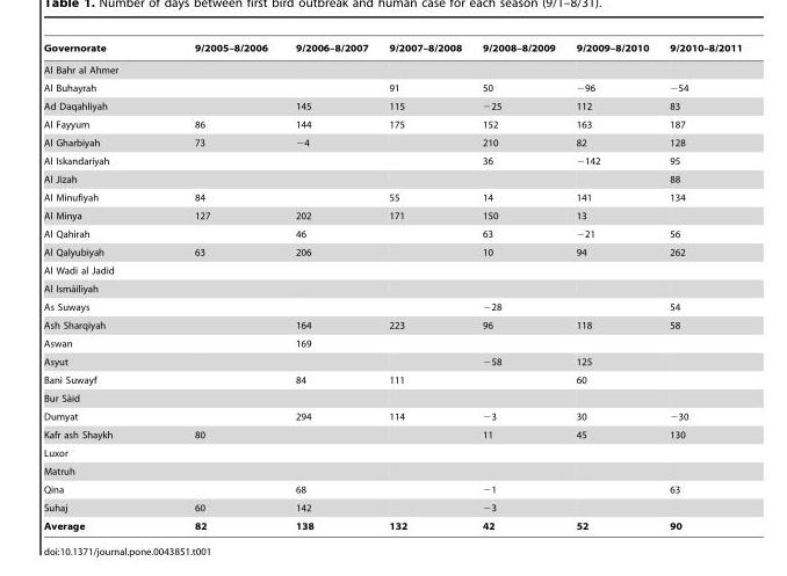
<table><thead><tr><td>Governorate</td><td>9/2005–8/2006</td><td>9/2006–8/2007</td><td>9/2007–8/2008</td><td>9/2008–8/2009</td><td>9/2009–8/2010</td><td>9/2010–8/2011</td></tr></thead><tbody><tr><td colspan="7">Al Bahr al Ahmer</td></tr><tr><td>Al Buhayrah</td><td></td><td></td><td>91</td><td>50</td><td>−96</td><td>−54</td></tr><tr><td>Ad Daqahliyah</td><td></td><td>145</td><td>115</td><td>−25</td><td>112</td><td>83</td></tr><tr><td>Al Fayyum</td><td>86</td><td>144</td><td>175</td><td>152</td><td>163</td><td>187</td></tr><tr><td>Al Gharbiyah</td><td>73</td><td>−4</td><td></td><td>210</td><td>82</td><td>128</td></tr><tr><td>Al Iskandariyah</td><td></td><td></td><td></td><td>36</td><td>−142</td><td>95</td></tr><tr><td>Al Jizah</td><td></td><td></td><td></td><td></td><td></td><td>88</td></tr><tr><td>Al Minufiyah</td><td>84</td><td></td><td>55</td><td>14</td><td>141</td><td>134</td></tr><tr><td>Al Minya</td><td>127</td><td>202</td><td>171</td><td>150</td><td>13</td><td></td></tr><tr><td>Al Qahirah</td><td></td><td>46</td><td></td><td>63</td><td>−21</td><td>56</td></tr><tr><td>Al Qalyubiyah</td><td>63</td><td>206</td><td></td><td>10</td><td>94</td><td>262</td></tr><tr><td colspan="7">Al Wadi al Jadid</td></tr><tr><td colspan="7">Al Isma`iliyah</td></tr><tr><td>As Suways</td><td></td><td></td><td></td><td>−28</td><td></td><td>54</td></tr><tr><td>Ash Sharqiyah</td><td></td><td>164</td><td>223</td><td>96</td><td>118</td><td>58</td></tr><tr><td>Aswan</td><td></td><td>169</td><td></td><td></td><td></td><td></td></tr><tr><td>Asyut</td><td></td><td></td><td></td><td>−58</td><td>125</td><td></td></tr><tr><td>Bani Suwayf</td><td></td><td>84</td><td>111</td><td></td><td>60</td><td></td></tr><tr><td colspan="7">Bur Sa`id</td></tr><tr><td>Dumyat</td><td></td><td>294</td><td>114</td><td>−3</td><td>30</td><td>−30</td></tr><tr><td>Kafr ash Shaykh</td><td>80</td><td></td><td></td><td>11</td><td>45</td><td>130</td></tr><tr><td colspan="7">Luxor</td></tr><tr><td colspan="7">Matruh</td></tr><tr><td>Qina</td><td></td><td>68</td><td></td><td>−1</td><td></td><td>63</td></tr><tr><td>Suhaj</td><td>60</td><td>142</td><td></td><td>−3</td><td></td><td></td></tr><tr><td>Average</td><td>82</td><td>138</td><td>132</td><td>42</td><td>52</td><td>90</td></tr></tbody></table>